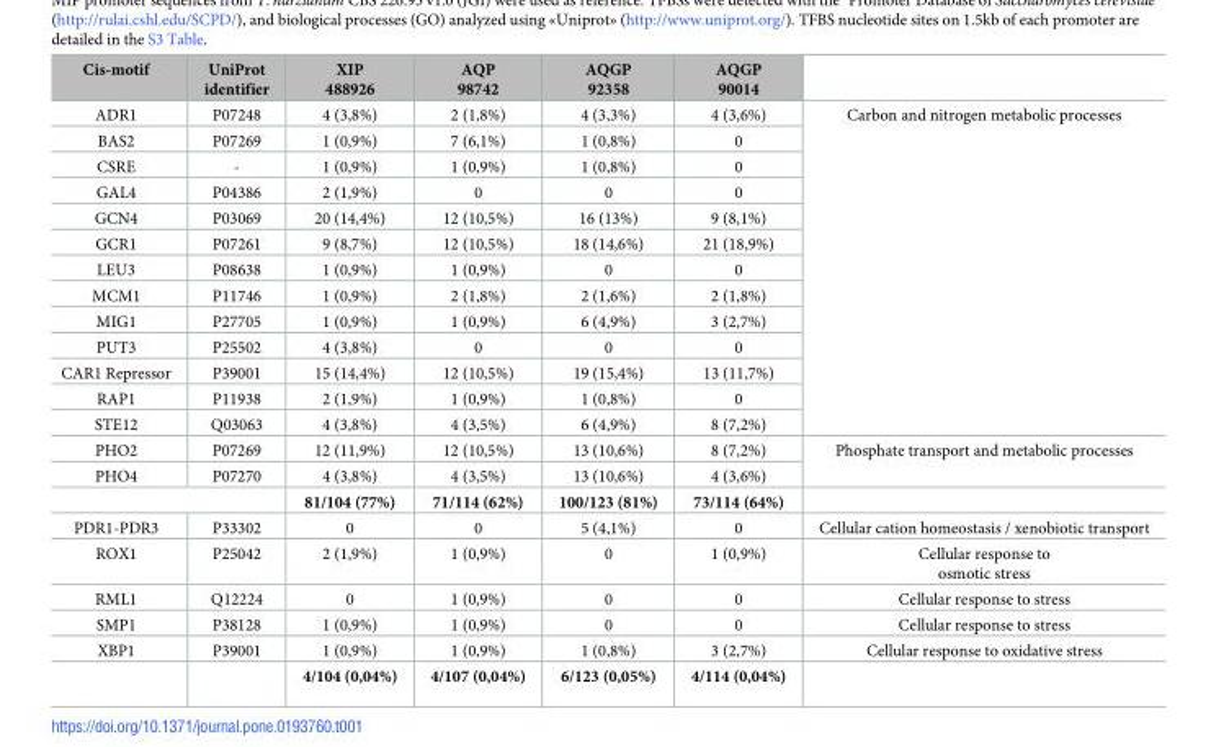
<table><thead><tr><td>Cis-motif</td><td>UniProt identifier</td><td>XIP 488926</td><td>AQP 98742</td><td>AQGP 92358</td><td>AQGP 90014</td><td></td></tr></thead><tbody><tr><td>ADR1</td><td>P07248</td><td>4 (3,8%)</td><td>2 (1,8%)</td><td>4 (3,3%)</td><td>4 (3,6%)</td><td rowspan="13">Carbon and nitrogen metabolic processes</td></tr><tr><td>BAS2</td><td>P07269</td><td>1 (0,9%)</td><td>7 (6,1%)</td><td>1 (0,8%)</td><td>0</td></tr><tr><td>CSRE</td><td>-</td><td>1 (0,9%)</td><td>1 (0,9%)</td><td>1 (0,8%)</td><td>0</td></tr><tr><td>GAL4</td><td>P04386</td><td>2 (1,9%)</td><td>0</td><td>0</td><td>0</td></tr><tr><td>GCN4</td><td>P03069</td><td>20 (14,4%)</td><td>12 (10,5%)</td><td>16 (13%)</td><td>9 (8,1%)</td></tr><tr><td>GCR1</td><td>P07261</td><td>9 (8,7%)</td><td>12 (10,5%)</td><td>18 (14,6%)</td><td>21 (18,9%)</td></tr><tr><td>LEU3</td><td>P08638</td><td>1 (0,9%)</td><td>1 (0,9%)</td><td>0</td><td>0</td></tr><tr><td>MCM1</td><td>P11746</td><td>1 (0,9%)</td><td>2 (1,8%)</td><td>2 (1,6%)</td><td>2 (1,8%)</td></tr><tr><td>MIG1</td><td>P27705</td><td>1 (0,9%)</td><td>1 (0,9%)</td><td>6 (4,9%)</td><td>3 (2,7%)</td></tr><tr><td>PUT3</td><td>P25502</td><td>4 (3,8%)</td><td>0</td><td>0</td><td>0</td></tr><tr><td>CAR1 Repressor</td><td>P39001</td><td>15 (14,4%)</td><td>12 (10,5%)</td><td>19 (15,4%)</td><td>13 (11,7%)</td></tr><tr><td>RAP1</td><td>P11938</td><td>2 (1,9%)</td><td>1 (0,9%)</td><td>1 (0,8%)</td><td>0</td></tr><tr><td>STE12</td><td>Q03063</td><td>4 (3,8%)</td><td>4 (3,5%)</td><td>6 (4,9%)</td><td>8 (7,2%)</td></tr><tr><td>PHO2</td><td>P07269</td><td>12 (11,9%)</td><td>12 (10,5%)</td><td>13 (10,6%)</td><td>8 (7,2%)</td><td rowspan="2">Phosphate transport and metabolic processes</td></tr><tr><td>PHO4</td><td>P07270</td><td>4 (3,8%)</td><td>4 (3,5%)</td><td>13 (10,6%)</td><td>4 (3,6%)</td></tr><tr><td colspan="2"></td><td>81/104 (77%)</td><td>71/114 (62%)</td><td>100/123 (81%)</td><td>73/114 (64%)</td><td></td></tr><tr><td>PDR1-PDR3</td><td>P33302</td><td>0</td><td>0</td><td>5 (4,1%)</td><td>0</td><td>Cellular cation homeostasis / xenobiotic transport</td></tr><tr><td>ROX1</td><td>P25042</td><td>2 (1,9%)</td><td>1 (0,9%)</td><td>0</td><td>1 (0,9%)</td><td>Cellular response to osmotic stress</td></tr><tr><td>RML1</td><td>Q12224</td><td>0</td><td>1 (0,9%)</td><td>0</td><td>0</td><td>Cellular response to stress</td></tr><tr><td>SMP1</td><td>P38128</td><td>1 (0,9%)</td><td>1 (0,9%)</td><td>0</td><td>0</td><td>Cellular response to stress</td></tr><tr><td rowspan="2">XBP1</td><td>P39001</td><td>1 (0,9%)</td><td>1 (0,9%)</td><td>1 (0,8%)</td><td>3 (2,7%)</td><td>Cellular response to oxidative stress</td></tr><tr><td></td><td>4/104 (0,04%)</td><td>4/107 (0,04%)</td><td>6/123 (0,05%)</td><td>4/114 (0,04%)</td><td></td></tr></tbody></table>